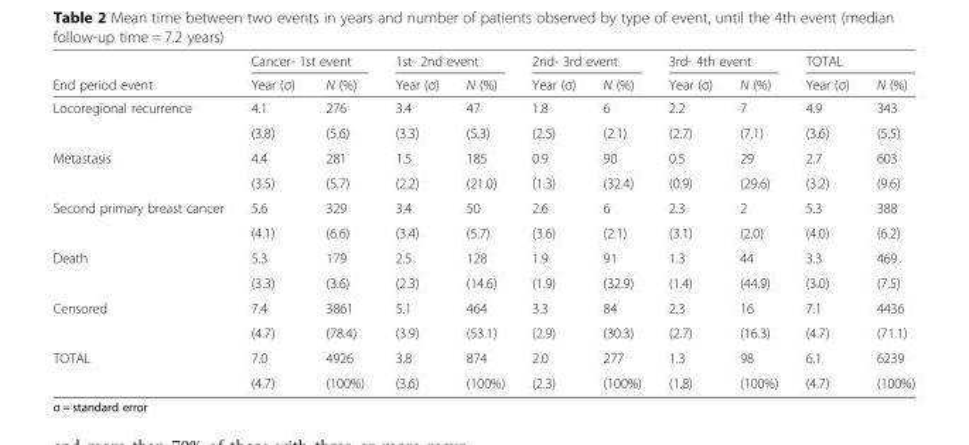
<table><thead><tr><td rowspan="2">End period event</td><td colspan="2">Cancer- 1st event</td><td colspan="2">1st- 2nd event</td><td colspan="2">2nd- 3rd event</td><td colspan="2">3rd- 4th event</td><td colspan="2">TOTAL</td></tr><tr><td>Year (σ)</td><td>N (%)</td><td>Year (σ)</td><td>N (%)</td><td>Year (σ)</td><td>N (%)</td><td>Year (σ)</td><td>N (%)</td><td>Year (σ)</td><td>N (%)</td></tr></thead><tbody><tr><td rowspan="2">Locoregional recurrence</td><td>4.1</td><td>276</td><td>3.4</td><td>47</td><td>1.8</td><td>6</td><td>2.2</td><td>7</td><td>4.9</td><td>343</td></tr><tr><td>(3.8)</td><td>(5.6)</td><td>(3.3)</td><td>(5.3)</td><td>(2.5)</td><td>(2.1)</td><td>(2.7)</td><td>(7.1)</td><td>(3.6)</td><td>(5.5)</td></tr><tr><td rowspan="2">Metastasis</td><td>4.4</td><td>281</td><td>1.5</td><td>185</td><td>0.9</td><td>90</td><td>0.5</td><td>29</td><td>2.7</td><td>603</td></tr><tr><td>(3.5)</td><td>(5.7)</td><td>(2.2)</td><td>(21.0)</td><td>(1.3)</td><td>(32.4)</td><td>(0.9)</td><td>(29.6)</td><td>(3.2)</td><td>(9.6)</td></tr><tr><td rowspan="2">Second primary breast cancer</td><td>5.6</td><td>329</td><td>3.4</td><td>50</td><td>2.6</td><td>6</td><td>2.3</td><td>2</td><td>5.3</td><td>388</td></tr><tr><td>(4.1)</td><td>(6.6)</td><td>(3.4)</td><td>(5.7)</td><td>(3.6)</td><td>(2.1)</td><td>(3.1)</td><td>(2.0)</td><td>(4.0)</td><td>(6.2)</td></tr><tr><td rowspan="2">Death</td><td>5.3</td><td>179</td><td>2.5</td><td>128</td><td>1.9</td><td>91</td><td>1.3</td><td>44</td><td>3.3</td><td>469</td></tr><tr><td>(3.3)</td><td>(3.6)</td><td>(2.3)</td><td>(14.6)</td><td>(1.9)</td><td>(32.9)</td><td>(1.4)</td><td>(44.9)</td><td>(3.0)</td><td>(7.5)</td></tr><tr><td rowspan="2">Censored</td><td>7.4</td><td>3861</td><td>5.1</td><td>464</td><td>3.3</td><td>84</td><td>2.3</td><td>16</td><td>7.1</td><td>4436</td></tr><tr><td>(4.7)</td><td>(78.4)</td><td>(3.9)</td><td>(53.1)</td><td>(2.9)</td><td>(30.3)</td><td>(2.7)</td><td>(16.3)</td><td>(4.7)</td><td>(71.1)</td></tr><tr><td rowspan="2">TOTAL</td><td>7.0</td><td>4926</td><td>3.8</td><td>874</td><td>2.0</td><td>277</td><td>1.3</td><td>98</td><td>6.1</td><td>6239</td></tr><tr><td>(4.7)</td><td>(100%)</td><td>(3.6)</td><td>(100%)</td><td>(2.3)</td><td>(100%)</td><td>(1.8)</td><td>(100%)</td><td>(4.7)</td><td>(100%)</td></tr></tbody></table>